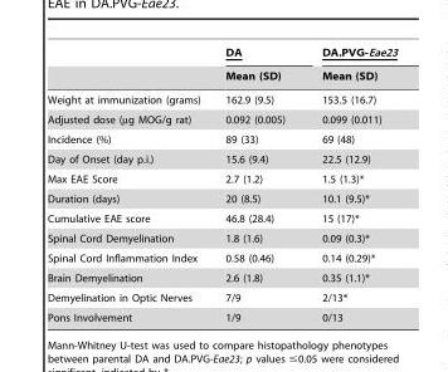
<table><thead><tr><td rowspan="2"></td><td rowspan="2">DA Mean (SD)</td><td rowspan="2">DA.PVG-Eae23 Mean (SD)</td></tr><tr></tr></thead><tbody><tr><td>Weight at immunization (grams)</td><td>162.9 (9.5)</td><td>153.5 (16.7)</td></tr><tr><td>Adjusted dose (µg MOG/g rat)</td><td>0.092 (0.005)</td><td>0.099 (0.011)</td></tr><tr><td>Incidence (%)</td><td>89 (33)</td><td>69 (48)</td></tr><tr><td>Day of Onset (day p.i.)</td><td>15.6 (9.4)</td><td>22.5 (12.9)</td></tr><tr><td>Max EAE Score</td><td>2.7 (1.2)</td><td>1.5 (1.3)*</td></tr><tr><td>Duration (days)</td><td>20 (8.5)</td><td>10.1 (9.5)*</td></tr><tr><td>Cumulative EAE score</td><td>46.8 (28.4)</td><td>15 (17)*</td></tr><tr><td>Spinal Cord Demyelination</td><td>1.8 (1.6)</td><td>0.09 (0.3)*</td></tr><tr><td>Spinal Cord Inflammation Index</td><td>0.58 (0.46)</td><td>0.14 (0.29)*</td></tr><tr><td>Brain Demyelination</td><td>2.6 (1.8)</td><td>0.35 (1.1)*</td></tr><tr><td>Demyelination in Optic Nerves</td><td>7/9</td><td>2/13*</td></tr><tr><td>Pons Involvement</td><td>1/9</td><td>0/13</td></tr></tbody></table>